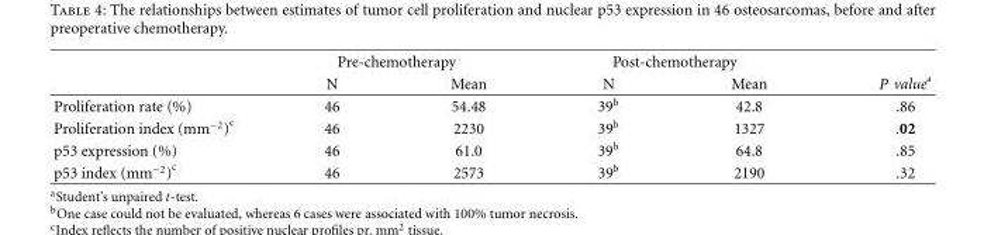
<table><thead><tr><td rowspan="2"></td><td colspan="2">Pre-chemotherapy</td><td colspan="2">Post-chemotherapy</td><td rowspan="2">P value<sup>a</sup></td></tr><tr><td>N</td><td>Mean</td><td>N</td><td>Mean</td></tr></thead><tbody><tr><td>Proliferation rate (%)</td><td>46</td><td>54.48</td><td>39<sup>b</sup></td><td>42.8</td><td>.86</td></tr><tr><td>Proliferation index (mm<sup>−2</sup>)<sup>c</sup></td><td>46</td><td>2230</td><td>39<sup>b</sup></td><td>1327</td><td>.02</td></tr><tr><td>p53 expression (%)</td><td>46</td><td>61.0</td><td>39<sup>b</sup></td><td>64.8</td><td>.85</td></tr><tr><td>p53 index (mm<sup>−2</sup>)<sup>c</sup></td><td>46</td><td>2573</td><td>39<sup>b</sup></td><td>2190</td><td>.32</td></tr></tbody></table>